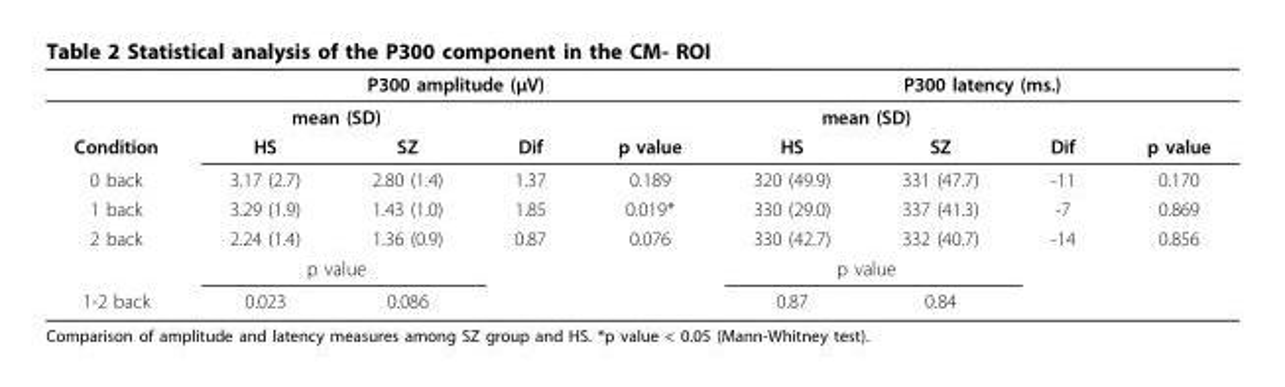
<table><thead><tr><td rowspan="3">Condition</td><td colspan="4">P300 amplitude (μV)</td><td colspan="4">P300 latency (ms.)</td></tr><tr><td colspan="2">mean (SD)</td><td rowspan="2">Dif</td><td rowspan="2">p value</td><td colspan="2">mean (SD)</td><td rowspan="2">Dif</td><td rowspan="2">p value</td></tr><tr><td>HS</td><td>SZ</td><td>HS</td><td>SZ</td></tr></thead><tbody><tr><td>0 back</td><td>3.17 (2.7)</td><td>2.80 (1.4)</td><td>1.37</td><td>0.189</td><td>320 (49.9)</td><td>331 (47.7)</td><td>-11</td><td>0.170</td></tr><tr><td>1 back</td><td>3.29 (1.9)</td><td>1.43 (1.0)</td><td>1.85</td><td>0.019*</td><td>330 (29.0)</td><td>337 (41.3)</td><td>-7</td><td>0.869</td></tr><tr><td rowspan="2">2 back</td><td>2.24 (1.4)</td><td>1.36 (0.9)</td><td>0.87</td><td>0.076</td><td>330 (42.7)</td><td>332 (40.7)</td><td>-14</td><td>0.856</td></tr><tr><td colspan="2">p value</td><td></td><td></td><td colspan="2">p value</td><td></td><td></td></tr><tr><td>1-2 back</td><td>0.023</td><td>0.086</td><td></td><td></td><td>0.87</td><td>0.84</td><td></td><td></td></tr></tbody></table>